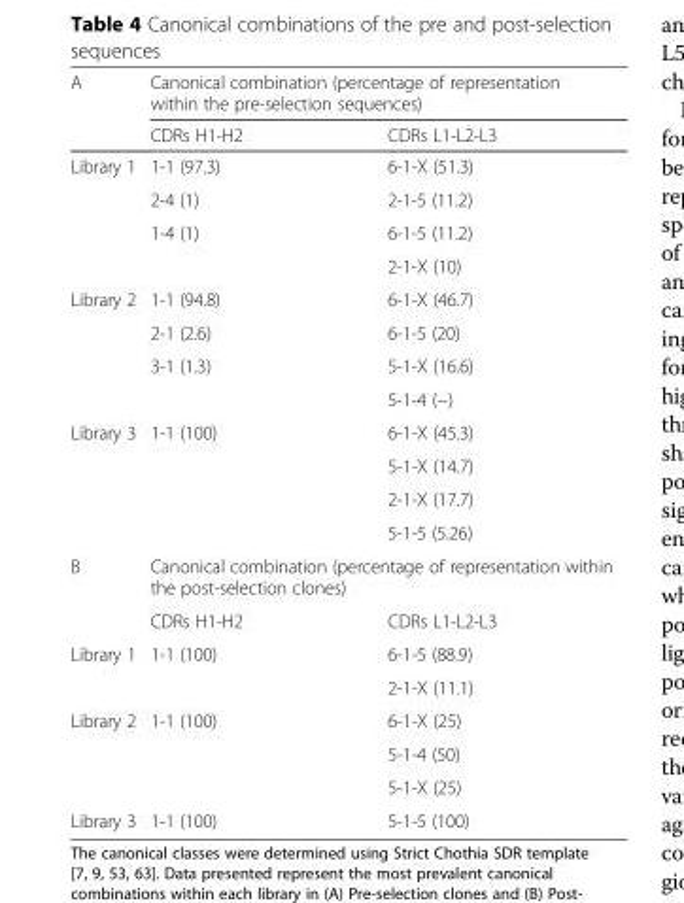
<table><thead><tr><td rowspan="2">A</td><td colspan="2">Canonical combination (percentage of representation within the pre-selection sequences)</td></tr><tr><td>CDRs H1-H2</td><td>CDRs L1-L2-L3</td></tr></thead><tbody><tr><td rowspan="4">Library 1</td><td>1-1 (97.3)</td><td>6-1-X (51.3)</td></tr><tr><td>2-4 (1)</td><td>2-1-5 (11.2)</td></tr><tr><td rowspan="2">1-4 (1)</td><td>6-1-5 (11.2)</td></tr><tr><td>2-1-X (10)</td></tr><tr><td rowspan="4">Library 2</td><td>1-1 (94.8)</td><td>6-1-X (46.7)</td></tr><tr><td>2-1 (2.6)</td><td>6-1-5 (20)</td></tr><tr><td rowspan="2">3-1 (1.3)</td><td>5-1-X (16.6)</td></tr><tr><td>5-1-4 (−)</td></tr><tr><td rowspan="4">Library 3</td><td rowspan="4">1-1 (100)</td><td>6-1-X (45.3)</td></tr><tr><td>5-1-X (14.7)</td></tr><tr><td>2-1-X (17.7)</td></tr><tr><td>5-1-5 (5.26)</td></tr><tr><td rowspan="2">B</td><td colspan="2">Canonical combination (percentage of representation within the post-selection clones)</td></tr><tr><td>CDRs H1-H2</td><td>CDRs L1-L2-L3</td></tr><tr><td rowspan="2">Library 1</td><td rowspan="2">1-1 (100)</td><td>6-1-5 (88.9)</td></tr><tr><td>2-1-X (11.1)</td></tr><tr><td rowspan="3">Library 2</td><td rowspan="3">1-1 (100)</td><td>6-1-X (25)</td></tr><tr><td>5-1-4 (50)</td></tr><tr><td>5-1-X (25)</td></tr><tr><td>Library 3</td><td>1-1 (100)</td><td>5-1-5 (100)</td></tr></tbody></table>